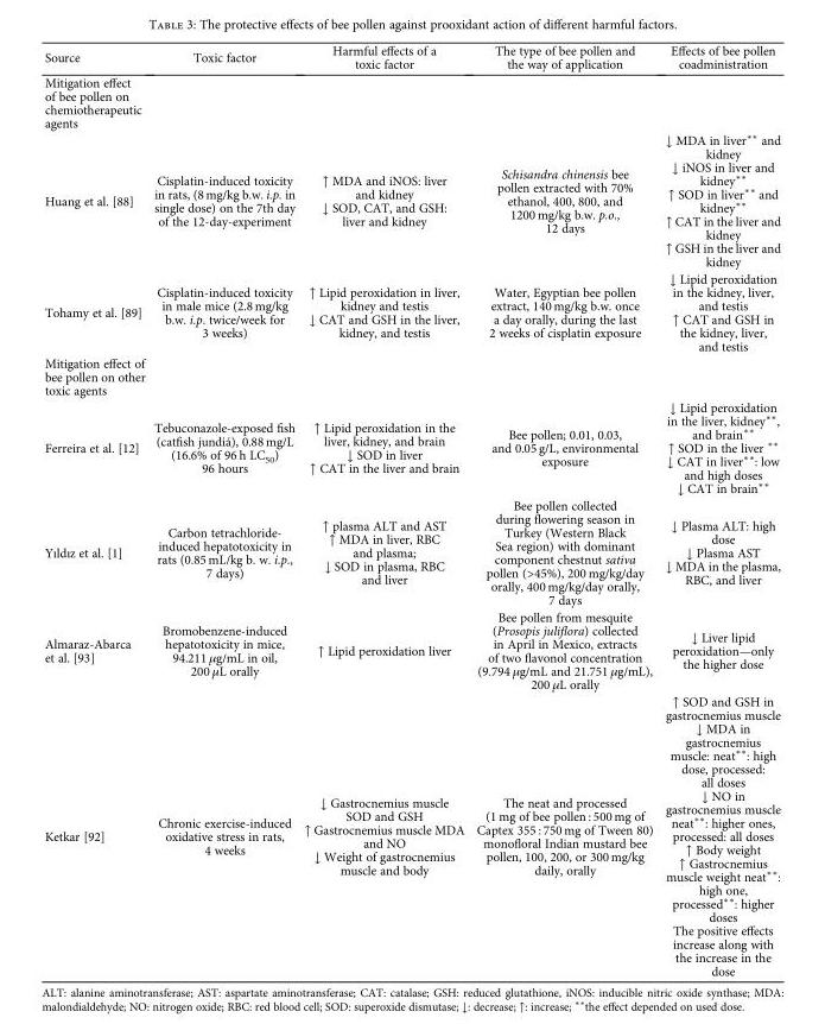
<table><thead><tr><td>Source</td><td>Toxic factor</td><td>Harmful effects of a toxic factor</td><td>The type of bee pollen and the way of application</td><td>Effects of bee pollen coadministration</td></tr></thead><tbody><tr><td colspan="5">Mitigation effect of bee pollen on chemiotherapeutic agents</td></tr><tr><td>Huang et al. [88]</td><td>Cisplatin-induced toxicity in rats, (8 mg/kg b.w. i.p. in single dose) on the 7th day of the 12-day-experiment</td><td>↑ MDA and iNOS: liver and kidney ↓ SOD, CAT, and GSH: liver and kidney</td><td>Schisandra chinensis bee pollen extracted with 70% ethanol, 400, 800, and 1200 mg/kg b.w. p.o., 12 days</td><td>↓ MDA in liver∗∗ and kidney ↓ iNOS in liver and kidney∗∗ ↑ SOD in liver∗∗ and kidney∗∗ ↑ CAT in the liver and kidney ↑ GSH in the liver and kidney</td></tr><tr><td>Tohamy et al. [89]</td><td>Cisplatin-induced toxicity in male mice (2.8 mg/kg b.w. i.p. twice/week for 3 weeks)</td><td>↑ Lipid peroxidation in liver, kidney and testis ↓ CAT and GSH in the liver, kidney, and testis</td><td>Water, Egyptian bee pollen extract, 140 mg/kg b.w. once a day orally, during the last 2 weeks of cisplatin exposure</td><td>↓ Lipid peroxidation in the kidney, liver, and testis ↑ CAT and GSH in the kidney, liver, and testis</td></tr><tr><td colspan="5">Mitigation effect of bee pollen on other toxic agents</td></tr><tr><td>Ferreira et al. [12]</td><td>Tebuconazole-exposed fish (catfish jundiá), 0.88 mg/L (16.6% of 96 h LC<sub>50</sub>) 96 hours</td><td>↑ Lipid peroxidation in the liver, kidney, and brain ↓ SOD in liver ↑ CAT in the liver and brain</td><td>Bee pollen; 0.01, 0.03, and 0.05 g/L, environmental exposure</td><td>↓ Lipid peroxidation in the liver, kidney∗∗, and brain∗∗ ↑ SOD in the liver ∗∗ ↓ CAT in liver∗∗: low and high doses ↓ CAT in brain∗∗</td></tr><tr><td>Yıldız et al. [1]</td><td>Carbon tetrachloride- induced hepatotoxicity in rats (0.85 mL/kg b. w. i.p., 7 days)</td><td>↑ plasma ALT and AST ↑ MDA in liver, RBC and plasma; ↓ SOD in plasma, RBC and liver</td><td>Bee pollen collected during flowering season in Turkey (Western Black Sea region) with dominant component chestnut sativa pollen (&gt;45%), 200 mg/kg/day orally, 400 mg/kg/day orally, 7 days</td><td>↓ Plasma ALT: high dose ↓ Plasma AST ↓ MDA in the plasma, RBC, and liver</td></tr><tr><td>Almaraz-Abarca et al. [93]</td><td>Bromobenzene-induced hepatotoxicity in mice, 94.211 μg/mL in oil, 200 μL orally</td><td>↑ Lipid peroxidation liver</td><td>Bee pollen from mesquite (Prosopis juliflora) collected in April in Mexico, extracts of two flavonol concentration (9.794 μg/mL and 21.751 μg/mL), 200 μL orally</td><td>↓ Liver lipid peroxidation—only the higher dose</td></tr><tr><td>Ketkar [92]</td><td>Chronic exercise-induced oxidative stress in rats, 4 weeks</td><td>↓ Gastrocnemius muscle SOD and GSH ↑ Gastrocnemius muscle MDA and NO ↓ Weight of gastrocnemius muscle and body</td><td>The neat and processed (1 mg of bee pollen : 500 mg of Captex 355 : 750 mg of Tween 80) monofloral Indian mustard bee pollen, 100, 200, or 300 mg/kg daily, orally</td><td>↑ SOD and GSH in gastrocnemius muscle ↓ MDA in gastrocnemius muscle: neat∗∗: high dose, processed: all doses ↓ NO in gastrocnemius muscle neat∗∗: higher ones, processed: all doses ↑ Body weight ↑ Gastrocnemius muscle weight neat∗∗: high one, processed∗∗: higher doses The positive effects increase along with the increase in the dose</td></tr></tbody></table>